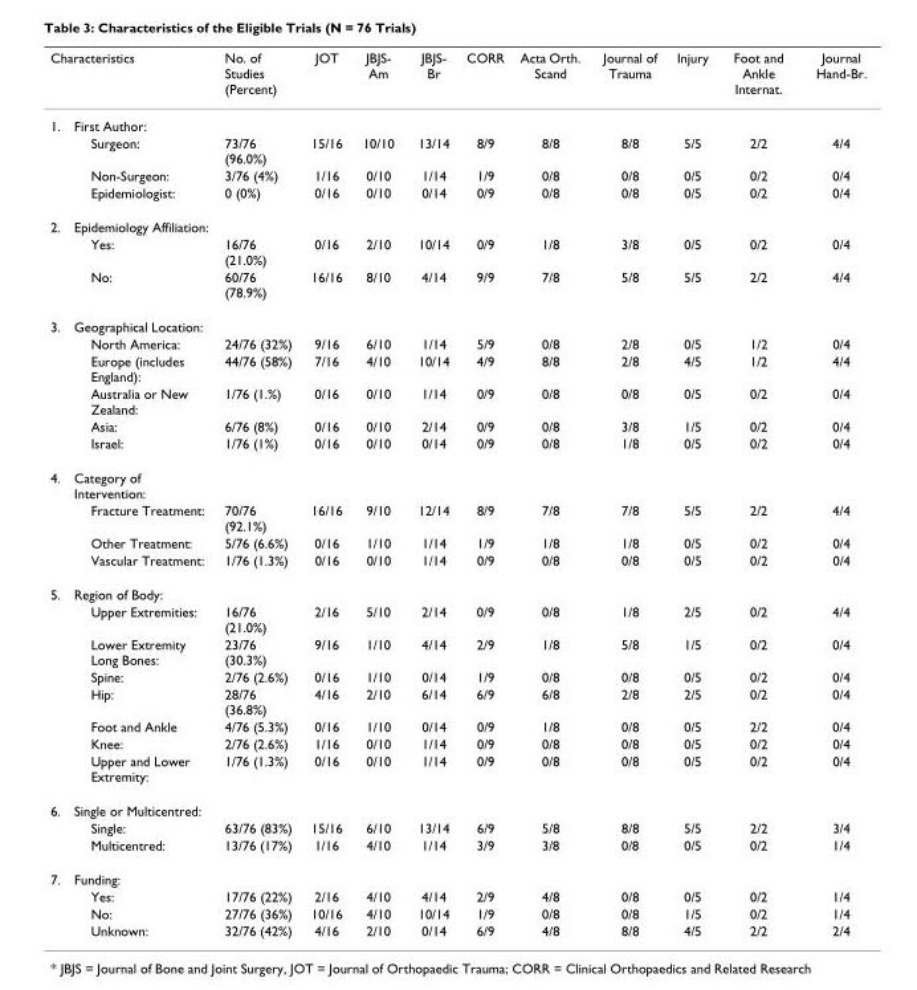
<table><thead><tr><td colspan="2">Characteristics</td><td rowspan="2">No. of Studies (Percent)</td><td rowspan="2">JOT</td><td rowspan="2">JBJS- Am</td><td rowspan="2">JBJS- Br</td><td rowspan="2">CORR</td><td rowspan="2">Acta Orth. Scand</td><td rowspan="2">Journal of Trauma</td><td rowspan="2">Injury</td><td rowspan="2">Foot and Ankle Internat.</td><td rowspan="2">Journal Hand-Br.</td></tr><tr><td>1.</td><td>First Author:</td></tr></thead><tbody><tr><td></td><td>Surgeon:</td><td>73/76 (96.0%)</td><td>15/16</td><td>10/10</td><td>13/14</td><td>8/9</td><td>8/8</td><td>8/8</td><td>5/5</td><td>2/2</td><td>4/4</td></tr><tr><td></td><td>Non-Surgeon:</td><td>3/76 (4%)</td><td>1/16</td><td>0/10</td><td>1/14</td><td>1/9</td><td>0/8</td><td>0/8</td><td>0/5</td><td>0/2</td><td>0/4</td></tr><tr><td></td><td>Epidemiologist:</td><td>0 (0%)</td><td>0/16</td><td>0/10</td><td>0/14</td><td>0/9</td><td>0/8</td><td>0/8</td><td>0/5</td><td>0/2</td><td>0/4</td></tr><tr><td rowspan="3">2.</td><td>Epidemiology Affiliation:</td><td></td><td></td><td></td><td></td><td></td><td></td><td></td><td></td><td></td><td></td></tr><tr><td>Yes:</td><td>16/76 (21.0%)</td><td>0/16</td><td>2/10</td><td>10/14</td><td>0/9</td><td>1/8</td><td>3/8</td><td>0/5</td><td>0/2</td><td>0/4</td></tr><tr><td>No:</td><td>60/76 (78.9%)</td><td>16/16</td><td>8/10</td><td>4/14</td><td>9/9</td><td>7/8</td><td>5/8</td><td>5/5</td><td>2/2</td><td>4/4</td></tr><tr><td rowspan="6">3.</td><td>Geographical Location:</td><td></td><td></td><td></td><td></td><td></td><td></td><td></td><td></td><td></td><td></td></tr><tr><td>North America:</td><td>24/76 (32%)</td><td>9/16</td><td>6/10</td><td>1/14</td><td>5/9</td><td>0/8</td><td>2/8</td><td>0/5</td><td>1/2</td><td>0/4</td></tr><tr><td>Europe (includes England):</td><td>44/76 (58%)</td><td>7/16</td><td>4/10</td><td>10/14</td><td>4/9</td><td>8/8</td><td>2/8</td><td>4/5</td><td>1/2</td><td>4/4</td></tr><tr><td>Australia or New Zealand:</td><td>1/76 (1.%)</td><td>0/16</td><td>0/10</td><td>1/14</td><td>0/9</td><td>0/8</td><td>0/8</td><td>0/5</td><td>0/2</td><td>0/4</td></tr><tr><td>Asia:</td><td>6/76 (8%)</td><td>0/16</td><td>0/10</td><td>2/14</td><td>0/9</td><td>0/8</td><td>3/8</td><td>1/5</td><td>0/2</td><td>0/4</td></tr><tr><td>Israel:</td><td>1/76 (1%)</td><td>0/16</td><td>0/10</td><td>0/14</td><td>0/9</td><td>0/8</td><td>1/8</td><td>0/5</td><td>0/2</td><td>0/4</td></tr><tr><td rowspan="4">4.</td><td>Category of Intervention:</td><td></td><td></td><td></td><td></td><td></td><td></td><td></td><td></td><td></td><td></td></tr><tr><td>Fracture Treatment:</td><td>70/76 (92.1%)</td><td>16/16</td><td>9/10</td><td>12/14</td><td>8/9</td><td>7/8</td><td>7/8</td><td>5/5</td><td>2/2</td><td>4/4</td></tr><tr><td>Other Treatment:</td><td>5/76 (6.6%)</td><td>0/16</td><td>1/10</td><td>1/14</td><td>1/9</td><td>1/8</td><td>1/8</td><td>0/5</td><td>0/2</td><td>0/4</td></tr><tr><td>Vascular Treatment:</td><td>1/76 (1.3%)</td><td>0/16</td><td>0/10</td><td>1/14</td><td>0/9</td><td>0/8</td><td>0/8</td><td>0/5</td><td>0/2</td><td>0/4</td></tr><tr><td rowspan="8">5.</td><td>Region of Body:</td><td></td><td></td><td></td><td></td><td></td><td></td><td></td><td></td><td></td><td></td></tr><tr><td>Upper Extremities:</td><td>16/76 (21.0%)</td><td>2/16</td><td>5/10</td><td>2/14</td><td>0/9</td><td>0/8</td><td>1/8</td><td>2/5</td><td>0/2</td><td>4/4</td></tr><tr><td>Lower Extremity Long Bones:</td><td>23/76 (30.3%)</td><td>9/16</td><td>1/10</td><td>4/14</td><td>2/9</td><td>1/8</td><td>5/8</td><td>1/5</td><td>0/2</td><td>0/4</td></tr><tr><td>Spine:</td><td>2/76 (2.6%)</td><td>0/16</td><td>1/10</td><td>0/14</td><td>1/9</td><td>0/8</td><td>0/8</td><td>0/5</td><td>0/2</td><td>0/4</td></tr><tr><td>Hip:</td><td>28/76 (36.8%)</td><td>4/16</td><td>2/10</td><td>6/14</td><td>6/9</td><td>6/8</td><td>2/8</td><td>2/5</td><td>0/2</td><td>0/4</td></tr><tr><td>Foot and Ankle</td><td>4/76 (5.3%)</td><td>0/16</td><td>1/10</td><td>0/14</td><td>0/9</td><td>1/8</td><td>0/8</td><td>0/5</td><td>2/2</td><td>0/4</td></tr><tr><td>Knee:</td><td>2/76 (2.6%)</td><td>1/16</td><td>0/10</td><td>1/14</td><td>0/9</td><td>0/8</td><td>0/8</td><td>0/5</td><td>0/2</td><td>0/4</td></tr><tr><td>Upper and Lower Extremity:</td><td>1/76 (1.3%)</td><td>0/16</td><td>0/10</td><td>1/14</td><td>0/9</td><td>0/8</td><td>0/8</td><td>0/5</td><td>0/2</td><td>0/4</td></tr><tr><td rowspan="3">6.</td><td>Single or Multicentred:</td><td></td><td></td><td></td><td></td><td></td><td></td><td></td><td></td><td></td><td></td></tr><tr><td>Single:</td><td>63/76 (83%)</td><td>15/16</td><td>6/10</td><td>13/14</td><td>6/9</td><td>5/8</td><td>8/8</td><td>5/5</td><td>2/2</td><td>3/4</td></tr><tr><td>Multicentred:</td><td>13/76 (17%)</td><td>1/16</td><td>4/10</td><td>1/14</td><td>3/9</td><td>3/8</td><td>0/8</td><td>0/5</td><td>0/2</td><td>1/4</td></tr><tr><td rowspan="4">7.</td><td>Funding:</td><td></td><td></td><td></td><td></td><td></td><td></td><td></td><td></td><td></td><td></td></tr><tr><td>Yes:</td><td>17/76 (22%)</td><td>2/16</td><td>4/10</td><td>4/14</td><td>2/9</td><td>4/8</td><td>0/8</td><td>0/5</td><td>0/2</td><td>1/4</td></tr><tr><td>No:</td><td>27/76 (36%)</td><td>10/16</td><td>4/10</td><td>10/14</td><td>1/9</td><td>0/8</td><td>0/8</td><td>1/5</td><td>0/2</td><td>1/4</td></tr><tr><td>Unknown:</td><td>32/76 (42%)</td><td>4/16</td><td>2/10</td><td>0/14</td><td>6/9</td><td>4/8</td><td>8/8</td><td>4/5</td><td>2/2</td><td>2/4</td></tr></tbody></table>